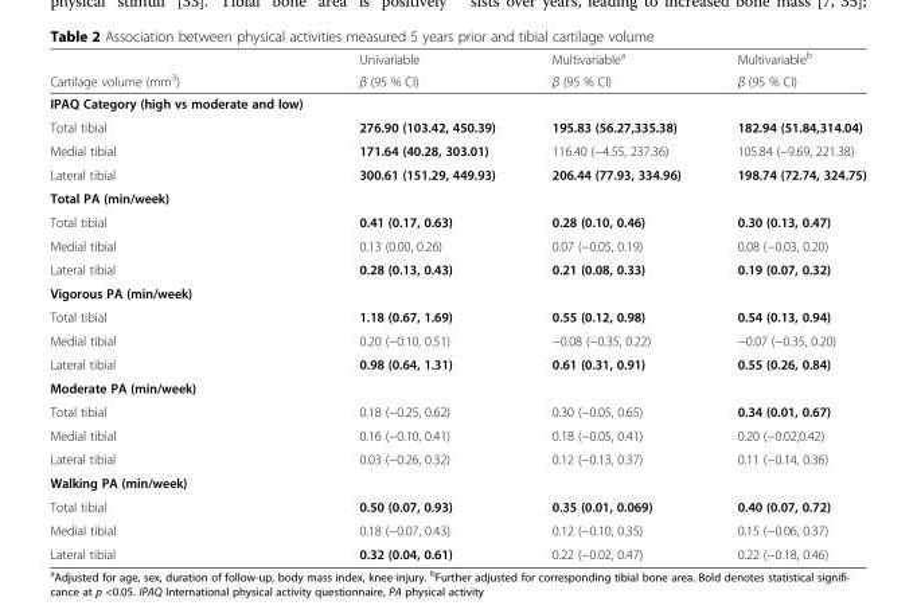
<table><thead><tr><td rowspan="2">Cartilage volume (mm<sup>3</sup>)</td><td rowspan="2">Univariable β (95 % CI)</td><td rowspan="2">Multivariable<sup>a</sup> β (95 % CI)</td><td rowspan="2">Multivariable<sup>b</sup> β (95 % CI)</td></tr><tr></tr></thead><tbody><tr><td colspan="4">IPAQ Category (high vs moderate and low)</td></tr><tr><td>Total tibial</td><td>276.90 (103.42, 450.39)</td><td>195.83 (56.27,335.38)</td><td>182.94 (51.84,314.04)</td></tr><tr><td>Medial tibial</td><td>171.64 (40.28, 303.01)</td><td>116.40 (−4.55, 237.36)</td><td>105.84 (−9.69, 221.38)</td></tr><tr><td>Lateral tibial</td><td>300.61 (151.29, 449.93)</td><td>206.44 (77.93, 334.96)</td><td>198.74 (72.74, 324.75)</td></tr><tr><td colspan="4">Total PA (min/week)</td></tr><tr><td>Total tibial</td><td>0.41 (0.17, 0.63)</td><td>0.28 (0.10, 0.46)</td><td>0.30 (0.13, 0.47)</td></tr><tr><td>Medial tibial</td><td>0.13 (0.00, 0.26)</td><td>0.07 (−0.05, 0.19)</td><td>0.08 (−0.03, 0.20)</td></tr><tr><td>Lateral tibial</td><td>0.28 (0.13, 0.43)</td><td>0.21 (0.08, 0.33)</td><td>0.19 (0.07, 0.32)</td></tr><tr><td colspan="4">Vigorous PA (min/week)</td></tr><tr><td>Total tibial</td><td>1.18 (0.67, 1.69)</td><td>0.55 (0.12, 0.98)</td><td>0.54 (0.13, 0.94)</td></tr><tr><td>Medial tibial</td><td>0.20 (−0.10, 0.51)</td><td>−0.08 (−0.35, 0.22)</td><td>−0.07 (−0.35, 0.20)</td></tr><tr><td>Lateral tibial</td><td>0.98 (0.64, 1.31)</td><td>0.61 (0.31, 0.91)</td><td>0.55 (0.26, 0.84)</td></tr><tr><td colspan="4">Moderate PA (min/week)</td></tr><tr><td>Total tibial</td><td>0.18 (−0.25, 0.62)</td><td>0.30 (−0.05, 0.65)</td><td>0.34 (0.01, 0.67)</td></tr><tr><td>Medial tibial</td><td>0.16 (−0.10, 0.41)</td><td>0.18 (−0.05, 0.41)</td><td>0.20 (−0.02,0.42)</td></tr><tr><td>Lateral tibial</td><td>0.03 (−0.26, 0.32)</td><td>0.12 (−0.13, 0.37)</td><td>0.11 (−0.14, 0.36)</td></tr><tr><td colspan="4">Walking PA (min/week)</td></tr><tr><td>Total tibial</td><td>0.50 (0.07, 0.93)</td><td>0.35 (0.01, 0.069)</td><td>0.40 (0.07, 0.72)</td></tr><tr><td>Medial tibial</td><td>0.18 (−0.07, 0.43)</td><td>0.12 (−0.10, 0.35)</td><td>0.15 (−0.06, 0.37)</td></tr><tr><td>Lateral tibial</td><td>0.32 (0.04, 0.61)</td><td>0.22 (−0.02, 0.47)</td><td>0.22 (−0.18, 0.46)</td></tr></tbody></table>